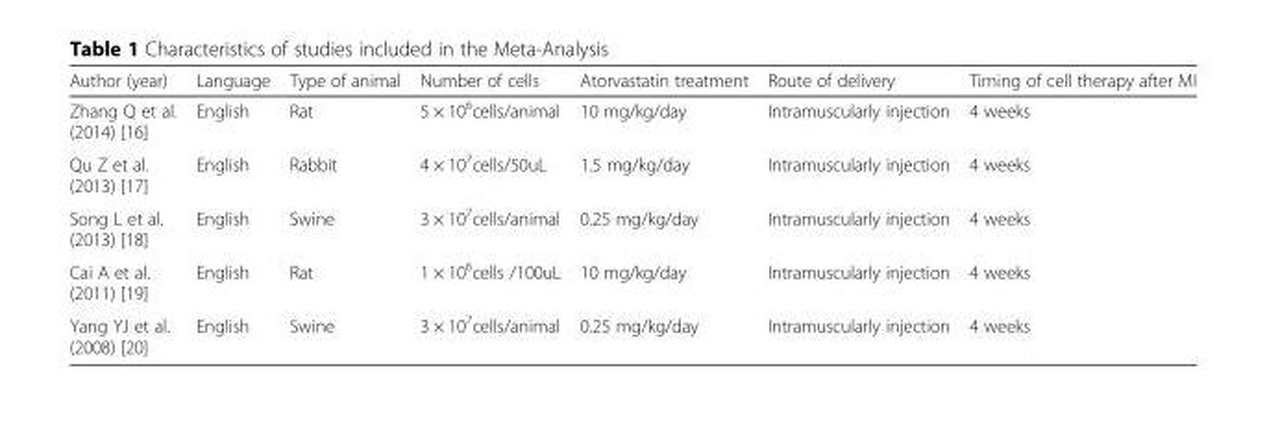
<table><thead><tr><td>Author (year)</td><td>Language</td><td>Type of animal</td><td>Number of cells</td><td>Atorvastatin treatment</td><td>Route of delivery</td><td>Timing of cell therapy after MI</td></tr></thead><tbody><tr><td>Zhang Q et al. (2014) [16]</td><td>English</td><td>Rat</td><td>5 × 10<sup>6</sup>cells/animal</td><td>10 mg/kg/day</td><td>Intramuscularly injection</td><td>4 weeks</td></tr><tr><td>Qu Z et al. (2013) [17]</td><td>English</td><td>Rabbit</td><td>4 × 10<sup>7</sup>cells/50uL</td><td>1.5 mg/kg/day</td><td>Intramuscularly injection</td><td>4 weeks</td></tr><tr><td>Song L et al. (2013) [18]</td><td>English</td><td>Swine</td><td>3 × 10<sup>7</sup>cells/animal</td><td>0.25 mg/kg/day</td><td>Intramuscularly injection</td><td>4 weeks</td></tr><tr><td>Cai A et al. (2011) [19]</td><td>English</td><td>Rat</td><td>1 × 10<sup>6</sup>cells /100uL</td><td>10 mg/kg/day</td><td>Intramuscularly injection</td><td>4 weeks</td></tr><tr><td>Yang YJ et al. (2008) [20]</td><td>English</td><td>Swine</td><td>3 × 10<sup>7</sup>cells/animal</td><td>0.25 mg/kg/day</td><td>Intramuscularly injection</td><td>4 weeks</td></tr></tbody></table>